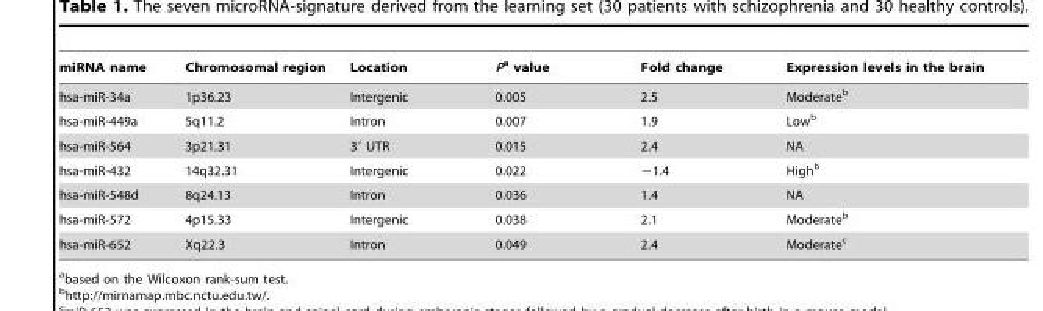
<table><thead><tr><td>miRNA name</td><td>Chromosomal region</td><td>Location</td><td>Pa value</td><td>Fold change</td><td>Expression levels in the brain</td></tr></thead><tbody><tr><td>hsa-miR-34a</td><td>1p36.23</td><td>Intergenic</td><td>0.005</td><td>2.5</td><td>Moderate<sup>b</sup></td></tr><tr><td>hsa-miR-449a</td><td>5q11.2</td><td>Intron</td><td>0.007</td><td>1.9</td><td>Low<sup>b</sup></td></tr><tr><td>hsa-miR-564</td><td>3p21.31</td><td>3′ UTR</td><td>0.015</td><td>2.4</td><td>NA</td></tr><tr><td>hsa-miR-432</td><td>14q32.31</td><td>Intergenic</td><td>0.022</td><td>−1.4</td><td>High<sup>b</sup></td></tr><tr><td>hsa-miR-548d</td><td>8q24.13</td><td>Intron</td><td>0.036</td><td>1.4</td><td>NA</td></tr><tr><td>hsa-miR-572</td><td>4p15.33</td><td>Intergenic</td><td>0.038</td><td>2.1</td><td>Moderate<sup>b</sup></td></tr><tr><td>hsa-miR-652</td><td>Xq22.3</td><td>Intron</td><td>0.049</td><td>2.4</td><td>Moderate<sup>c</sup></td></tr></tbody></table>